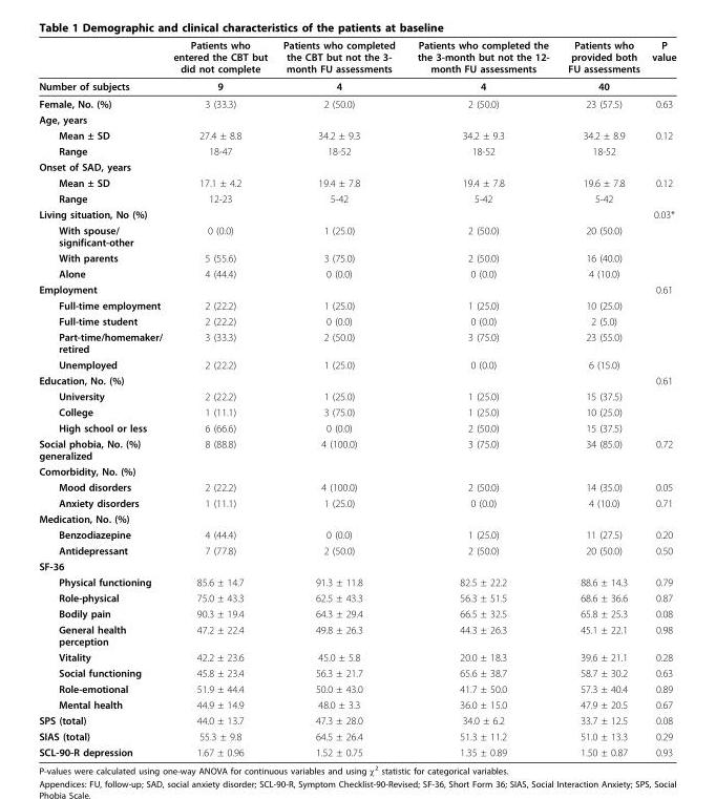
<table><thead><tr><td></td><td>Patients who entered the CBT but did not complete</td><td>Patients who completed the CBT but not the 3- month FU assessments</td><td>Patients who completed the the 3-month but not the 12- month FU assessments</td><td>Patients who provided both FU assessments</td><td>P value</td></tr></thead><tbody><tr><td>Number of subjects</td><td>9</td><td>4</td><td>4</td><td>40</td><td></td></tr><tr><td>Female, No. (%)</td><td>3 (33.3)</td><td>2 (50.0)</td><td>2 (50.0)</td><td>23 (57.5)</td><td>0.63</td></tr><tr><td colspan="6">Age, years</td></tr><tr><td>Mean ± SD</td><td>27.4 ± 8.8</td><td>34.2 ± 9.3</td><td>34.2 ± 9.3</td><td>34.2 ± 8.9</td><td>0.12</td></tr><tr><td>Range</td><td>18-47</td><td>18-52</td><td>18-52</td><td>18-52</td><td></td></tr><tr><td colspan="6">Onset of SAD, years</td></tr><tr><td>Mean ± SD</td><td>17.1 ± 4.2</td><td>19.4 ± 7.8</td><td>19.4 ± 7.8</td><td>19.6 ± 7.8</td><td>0.12</td></tr><tr><td>Range</td><td>12-23</td><td>5-42</td><td>5-42</td><td>5-42</td><td></td></tr><tr><td>Living situation, No (%)</td><td></td><td></td><td></td><td></td><td>0.03*</td></tr><tr><td>With spouse/ significant-other</td><td>0 (0.0)</td><td>1 (25.0)</td><td>2 (50.0)</td><td>20 (50.0)</td><td></td></tr><tr><td>With parents</td><td>5 (55.6)</td><td>3 (75.0)</td><td>2 (50.0)</td><td>16 (40.0)</td><td></td></tr><tr><td>Alone</td><td>4 (44.4)</td><td>0 (0.0)</td><td>0 (0.0)</td><td>4 (10.0)</td><td></td></tr><tr><td>Employment</td><td></td><td></td><td></td><td></td><td>0.61</td></tr><tr><td>Full-time employment</td><td>2 (22.2)</td><td>1 (25.0)</td><td>1 (25.0)</td><td>10 (25.0)</td><td></td></tr><tr><td>Full-time student</td><td>2 (22.2)</td><td>0 (0.0)</td><td>0 (0.0)</td><td>2 (5.0)</td><td></td></tr><tr><td>Part-time/homemaker/ retired</td><td>3 (33.3)</td><td>2 (50.0)</td><td>3 (75.0)</td><td>23 (55.0)</td><td></td></tr><tr><td>Unemployed</td><td>2 (22.2)</td><td>1 (25.0)</td><td>0 (0.0)</td><td>6 (15.0)</td><td></td></tr><tr><td>Education, No. (%)</td><td></td><td></td><td></td><td></td><td>0.61</td></tr><tr><td>University</td><td>2 (22.2)</td><td>1 (25.0)</td><td>1 (25.0)</td><td>15 (37.5)</td><td></td></tr><tr><td>College</td><td>1 (11.1)</td><td>3 (75.0)</td><td>1 (25.0)</td><td>10 (25.0)</td><td></td></tr><tr><td>High school or less</td><td>6 (66.6)</td><td>0 (0.0)</td><td>2 (50.0)</td><td>15 (37.5)</td><td></td></tr><tr><td>Social phobia, No. (%) generalized</td><td>8 (88.8)</td><td>4 (100.0)</td><td>3 (75.0)</td><td>34 (85.0)</td><td>0.72</td></tr><tr><td colspan="6">Comorbidity, No. (%)</td></tr><tr><td>Mood disorders</td><td>2 (22.2)</td><td>4 (100.0)</td><td>2 (50.0)</td><td>14 (35.0)</td><td>0.05</td></tr><tr><td>Anxiety disorders</td><td>1 (11.1)</td><td>1 (25.0)</td><td>0 (0.0)</td><td>4 (10.0)</td><td>0.71</td></tr><tr><td colspan="6">Medication, No. (%)</td></tr><tr><td>Benzodiazepine</td><td>4 (44.4)</td><td>0 (0.0)</td><td>1 (25.0)</td><td>11 (27.5)</td><td>0.20</td></tr><tr><td>Antidepressant</td><td>7 (77.8)</td><td>2 (50.0)</td><td>2 (50.0)</td><td>20 (50.0)</td><td>0.50</td></tr><tr><td colspan="6">SF-36</td></tr><tr><td>Physical functioning</td><td>85.6 ± 14.7</td><td>91.3 ± 11.8</td><td>82.5 ± 22.2</td><td>88.6 ± 14.3</td><td>0.79</td></tr><tr><td>Role-physical</td><td>75.0 ± 43.3</td><td>62.5 ± 43.3</td><td>56.3 ± 51.5</td><td>68.6 ± 36.6</td><td>0.87</td></tr><tr><td>Bodily pain</td><td>90.3 ± 19.4</td><td>64.3 ± 29.4</td><td>66.5 ± 32.5</td><td>65.8 ± 25.3</td><td>0.08</td></tr><tr><td>General health perception</td><td>47.2 ± 22.4</td><td>49.8 ± 26.3</td><td>44.3 ± 26.3</td><td>45.1 ± 22.1</td><td>0.98</td></tr><tr><td>Vitality</td><td>42.2 ± 23.6</td><td>45.0 ± 5.8</td><td>20.0 ± 18.3</td><td>39.6 ± 21.1</td><td>0.28</td></tr><tr><td>Social functioning</td><td>45.8 ± 23.4</td><td>56.3 ± 21.7</td><td>65.6 ± 38.7</td><td>58.7 ± 30.2</td><td>0.63</td></tr><tr><td>Role-emotional</td><td>51.9 ± 44.4</td><td>50.0 ± 43.0</td><td>41.7 ± 50.0</td><td>57.3 ± 40.4</td><td>0.89</td></tr><tr><td>Mental health</td><td>44.9 ± 14.9</td><td>48.0 ± 3.3</td><td>36.0 ± 15.0</td><td>47.9 ± 20.5</td><td>0.67</td></tr><tr><td>SPS (total)</td><td>44.0 ± 13.7</td><td>47.3 ± 28.0</td><td>34.0 ± 6.2</td><td>33.7 ± 12.5</td><td>0.08</td></tr><tr><td>SIAS (total)</td><td>55.3 ± 9.8</td><td>64.5 ± 26.4</td><td>51.3 ± 11.2</td><td>51.0 ± 13.3</td><td>0.29</td></tr><tr><td>SCL-90-R depression</td><td>1.67 ± 0.96</td><td>1.52 ± 0.75</td><td>1.35 ± 0.89</td><td>1.50 ± 0.87</td><td>0.93</td></tr></tbody></table>